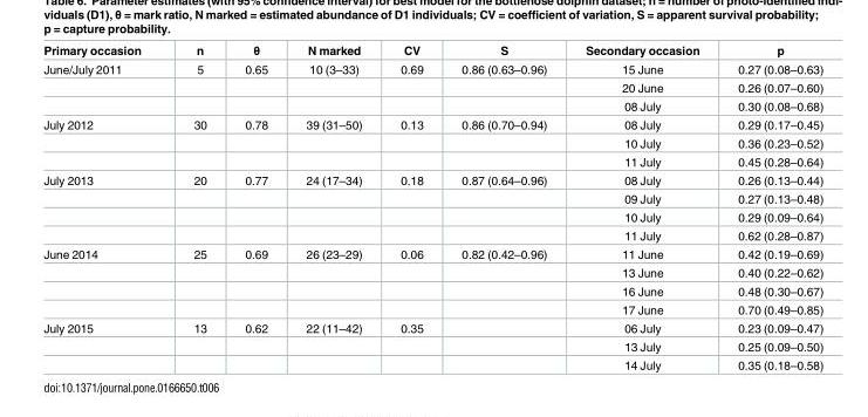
<table><thead><tr><td>Primary occasion</td><td>n</td><td>θ</td><td>N marked</td><td>CV</td><td>S</td><td>Secondary occasion</td><td>p</td></tr></thead><tbody><tr><td rowspan="3">June/July 2011</td><td>5</td><td>0.65</td><td>10 (3–33)</td><td>0.69</td><td>0.86 (0.63–0.96)</td><td>15 June</td><td>0.27 (0.08–0.63)</td></tr><tr><td></td><td></td><td></td><td></td><td></td><td>20 June</td><td>0.26 (0.07–0.60)</td></tr><tr><td></td><td></td><td></td><td></td><td></td><td>08 July</td><td>0.30 (0.08–0.68)</td></tr><tr><td rowspan="3">July 2012</td><td>30</td><td>0.78</td><td>39 (31–50)</td><td>0.13</td><td>0.86 (0.70–0.94)</td><td>08 July</td><td>0.29 (0.17–0.45)</td></tr><tr><td></td><td></td><td></td><td></td><td></td><td>10 July</td><td>0.36 (0.23–0.52)</td></tr><tr><td></td><td></td><td></td><td></td><td></td><td>11 July</td><td>0.45 (0.28–0.64)</td></tr><tr><td rowspan="4">July 2013</td><td>20</td><td>0.77</td><td>24 (17–34)</td><td>0.18</td><td>0.87 (0.64–0.96)</td><td>08 July</td><td>0.26 (0.13–0.44)</td></tr><tr><td></td><td></td><td></td><td></td><td></td><td>09 July</td><td>0.27 (0.13–0.48)</td></tr><tr><td></td><td></td><td></td><td></td><td></td><td>10 July</td><td>0.29 (0.09–0.64)</td></tr><tr><td></td><td></td><td></td><td></td><td></td><td>11 July</td><td>0.62 (0.28–0.87)</td></tr><tr><td rowspan="4">June 2014</td><td>25</td><td>0.69</td><td>26 (23–29)</td><td>0.06</td><td>0.82 (0.42–0.96)</td><td>11 June</td><td>0.42 (0.19–0.69)</td></tr><tr><td></td><td></td><td></td><td></td><td></td><td>13 June</td><td>0.40 (0.22–0.62)</td></tr><tr><td></td><td></td><td></td><td></td><td></td><td>16 June</td><td>0.48 (0.30–0.67)</td></tr><tr><td></td><td></td><td></td><td></td><td></td><td>17 June</td><td>0.70 (0.49–0.85)</td></tr><tr><td rowspan="3">July 2015</td><td>13</td><td>0.62</td><td>22 (11–42)</td><td>0.35</td><td></td><td>06 July</td><td>0.23 (0.09–0.47)</td></tr><tr><td></td><td></td><td></td><td></td><td></td><td>13 July</td><td>0.25 (0.09–0.50)</td></tr><tr><td></td><td></td><td></td><td></td><td></td><td>14 July</td><td>0.35 (0.18–0.58)</td></tr></tbody></table>